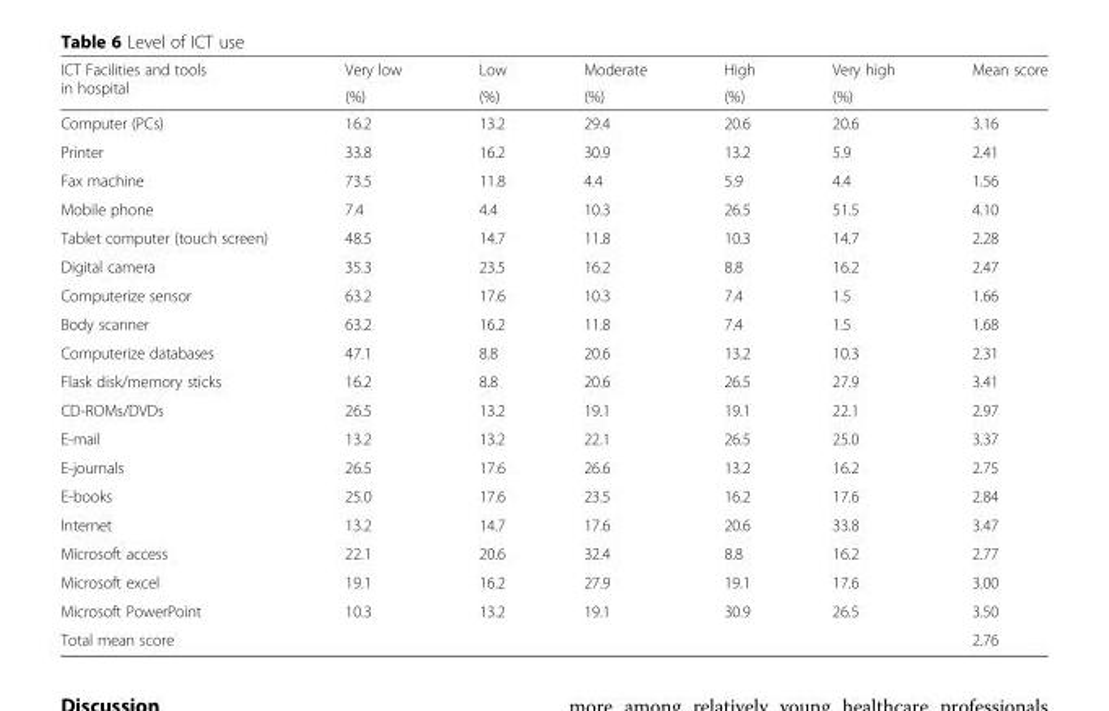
<table><thead><tr><td rowspan="2">ICT Facilities and tools in hospital</td><td rowspan="2">Very low (%)</td><td rowspan="2">Low (%)</td><td rowspan="2">Moderate (%)</td><td rowspan="2">High (%)</td><td rowspan="2">Very high (%)</td><td rowspan="2">Mean score</td></tr><tr></tr></thead><tbody><tr><td>Computer (PCs)</td><td>16.2</td><td>13.2</td><td>29.4</td><td>20.6</td><td>20.6</td><td>3.16</td></tr><tr><td>Printer</td><td>33.8</td><td>16.2</td><td>30.9</td><td>13.2</td><td>5.9</td><td>2.41</td></tr><tr><td>Fax machine</td><td>73.5</td><td>11.8</td><td>4.4</td><td>5.9</td><td>4.4</td><td>1.56</td></tr><tr><td>Mobile phone</td><td>7.4</td><td>4.4</td><td>10.3</td><td>26.5</td><td>51.5</td><td>4.10</td></tr><tr><td>Tablet computer (touch screen)</td><td>48.5</td><td>14.7</td><td>11.8</td><td>10.3</td><td>14.7</td><td>2.28</td></tr><tr><td>Digital camera</td><td>35.3</td><td>23.5</td><td>16.2</td><td>8.8</td><td>16.2</td><td>2.47</td></tr><tr><td>Computerize sensor</td><td>63.2</td><td>17.6</td><td>10.3</td><td>7.4</td><td>1.5</td><td>1.66</td></tr><tr><td>Body scanner</td><td>63.2</td><td>16.2</td><td>11.8</td><td>7.4</td><td>1.5</td><td>1.68</td></tr><tr><td>Computerize databases</td><td>47.1</td><td>8.8</td><td>20.6</td><td>13.2</td><td>10.3</td><td>2.31</td></tr><tr><td>Flask disk/memory sticks</td><td>16.2</td><td>8.8</td><td>20.6</td><td>26.5</td><td>27.9</td><td>3.41</td></tr><tr><td>CD-ROMs/DVDs</td><td>26.5</td><td>13.2</td><td>19.1</td><td>19.1</td><td>22.1</td><td>2.97</td></tr><tr><td>E-mail</td><td>13.2</td><td>13.2</td><td>22.1</td><td>26.5</td><td>25.0</td><td>3.37</td></tr><tr><td>E-journals</td><td>26.5</td><td>17.6</td><td>26.6</td><td>13.2</td><td>16.2</td><td>2.75</td></tr><tr><td>E-books</td><td>25.0</td><td>17.6</td><td>23.5</td><td>16.2</td><td>17.6</td><td>2.84</td></tr><tr><td>Internet</td><td>13.2</td><td>14.7</td><td>17.6</td><td>20.6</td><td>33.8</td><td>3.47</td></tr><tr><td>Microsoft access</td><td>22.1</td><td>20.6</td><td>32.4</td><td>8.8</td><td>16.2</td><td>2.77</td></tr><tr><td>Microsoft excel</td><td>19.1</td><td>16.2</td><td>27.9</td><td>19.1</td><td>17.6</td><td>3.00</td></tr><tr><td>Microsoft PowerPoint</td><td>10.3</td><td>13.2</td><td>19.1</td><td>30.9</td><td>26.5</td><td>3.50</td></tr><tr><td>Total mean score</td><td></td><td></td><td></td><td></td><td></td><td>2.76</td></tr></tbody></table>